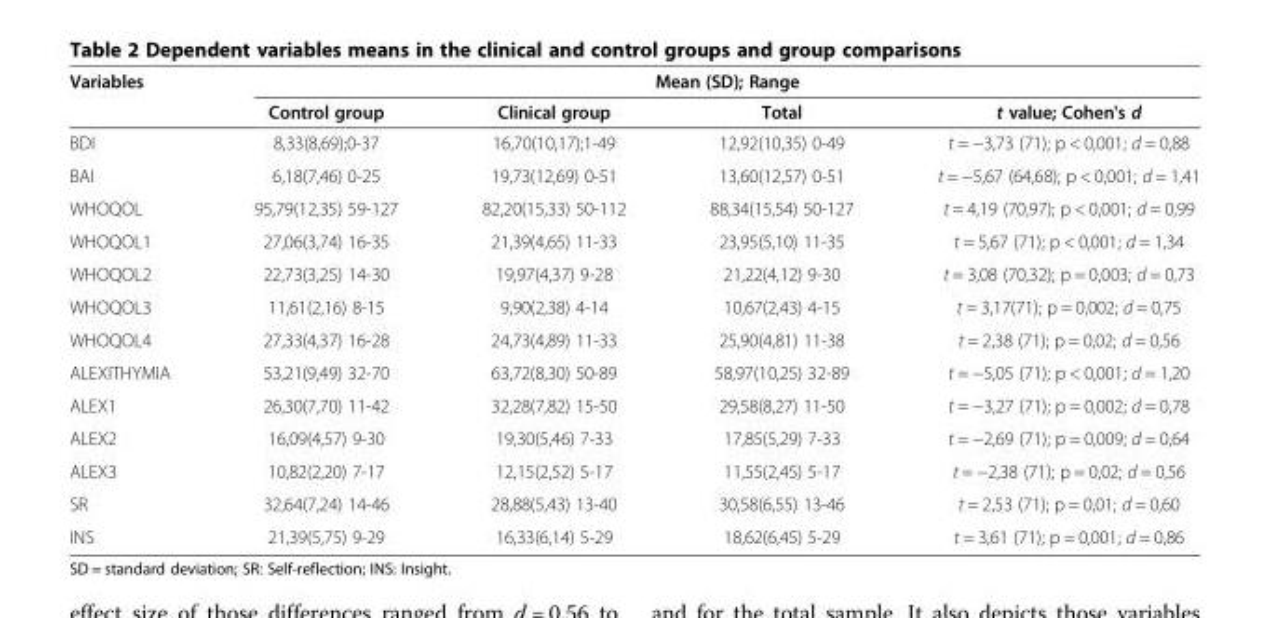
<table><thead><tr><td rowspan="2">Variables</td><td colspan="4">Mean (SD); Range</td></tr><tr><td>Control group</td><td>Clinical group</td><td>Total</td><td>t value; Cohen&#x27;s d</td></tr></thead><tbody><tr><td>BDI</td><td>8,33(8,69);0-37</td><td>16,70(10,17);1-49</td><td>12,92(10,35) 0-49</td><td>t = −3,73 (71); p &lt; 0,001; d = 0,88</td></tr><tr><td>BAI</td><td>6,18(7,46) 0-25</td><td>19,73(12,69) 0-51</td><td>13,60(12,57) 0-51</td><td>t = −5,67 (64,68); p &lt; 0,001; d = 1,41</td></tr><tr><td>WHOQOL</td><td>95,79(12,35) 59-127</td><td>82,20(15,33) 50-112</td><td>88,34(15,54) 50-127</td><td>t = 4,19 (70,97); p &lt; 0,001; d = 0,99</td></tr><tr><td>WHOQOL1</td><td>27,06(3,74) 16-35</td><td>21,39(4,65) 11-33</td><td>23,95(5,10) 11-35</td><td>t = 5,67 (71); p &lt; 0,001; d = 1,34</td></tr><tr><td>WHOQOL2</td><td>22,73(3,25) 14-30</td><td>19,97(4,37) 9-28</td><td>21,22(4,12) 9-30</td><td>t = 3,08 (70,32); p = 0,003; d = 0,73</td></tr><tr><td>WHOQOL3</td><td>11,61(2,16) 8-15</td><td>9,90(2,38) 4-14</td><td>10,67(2,43) 4-15</td><td>t = 3,17(71); p = 0,002; d = 0,75</td></tr><tr><td>WHOQOL4</td><td>27,33(4,37) 16-28</td><td>24,73(4,89) 11-33</td><td>25,90(4,81) 11-38</td><td>t = 2,38 (71); p = 0,02; d = 0,56</td></tr><tr><td>ALEXITHYMIA</td><td>53,21(9,49) 32-70</td><td>63,72(8,30) 50-89</td><td>58,97(10,25) 32-89</td><td>t = −5,05 (71); p &lt; 0,001; d = 1,20</td></tr><tr><td>ALEX1</td><td>26,30(7,70) 11-42</td><td>32,28(7,82) 15-50</td><td>29,58(8,27) 11-50</td><td>t = −3,27 (71); p = 0,002; d = 0,78</td></tr><tr><td>ALEX2</td><td>16,09(4,57) 9-30</td><td>19,30(5,46) 7-33</td><td>17,85(5,29) 7-33</td><td>t = −2,69 (71); p = 0,009; d = 0,64</td></tr><tr><td>ALEX3</td><td>10,82(2,20) 7-17</td><td>12,15(2,52) 5-17</td><td>11,55(2,45) 5-17</td><td>t = −2,38 (71); p = 0,02; d = 0,56</td></tr><tr><td>SR</td><td>32,64(7,24) 14-46</td><td>28,88(5,43) 13-40</td><td>30,58(6,55) 13-46</td><td>t = 2,53 (71); p = 0,01; d = 0,60</td></tr><tr><td>INS</td><td>21,39(5,75) 9-29</td><td>16,33(6,14) 5-29</td><td>18,62(6,45) 5-29</td><td>t = 3,61 (71); p = 0,001; d = 0,86</td></tr></tbody></table>